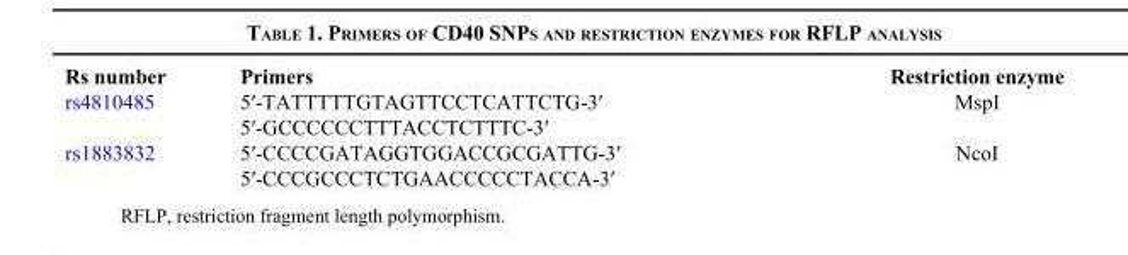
<table><thead><tr><td>Rs number</td><td>Primers</td><td>Restriction enzyme</td></tr></thead><tbody><tr><td rowspan="2">rs4810485</td><td>5′-TATTTTTGTAGTTCCTCATTCTG-3′</td><td>MspI</td></tr><tr><td>5′-GCCCCCCTTTACCTCTTTC-3′</td><td></td></tr><tr><td rowspan="2">rs1883832</td><td>5′-CCCCGATAGGTGGACCGCGATTG-3′</td><td>NcoI</td></tr><tr><td>5′-CCCGCCCTCTGAACCCCCTACCA-3′</td><td></td></tr></tbody></table>